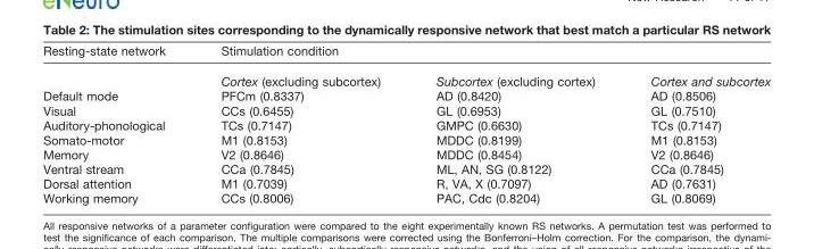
<table><thead><tr><td rowspan="2">Resting-state network</td><td colspan="3">Stimulation condition</td></tr><tr><td>Cortex (excluding subcortex)</td><td>Subcortex (excluding cortex)</td><td>Cortex and subcortex</td></tr></thead><tbody><tr><td>Default mode</td><td>PFCm (0.8337)</td><td>AD (0.8420)</td><td>AD (0.8506)</td></tr><tr><td>Visual</td><td>CCs (0.6455)</td><td>GL (0.6953)</td><td>GL (0.7510)</td></tr><tr><td>Auditory-phonological</td><td>TCs (0.7147)</td><td>GMPC (0.6630)</td><td>TCs (0.7147)</td></tr><tr><td>Somato-motor</td><td>M1 (0.8153)</td><td>MDDC (0.8199)</td><td>M1 (0.8153)</td></tr><tr><td>Memory</td><td>V2 (0.8646)</td><td>MDDC (0.8454)</td><td>V2 (0.8646)</td></tr><tr><td>Ventral stream</td><td>CCa (0.7845)</td><td>ML, AN, SG (0.8122)</td><td>CCa (0.7845)</td></tr><tr><td>Dorsal attention</td><td>M1 (0.7039)</td><td>R, VA, X (0.7097)</td><td>AD (0.7631)</td></tr><tr><td>Working memory</td><td>CCs (0.8006)</td><td>PAC, Cdc (0.8204)</td><td>GL (0.8069)</td></tr></tbody></table>